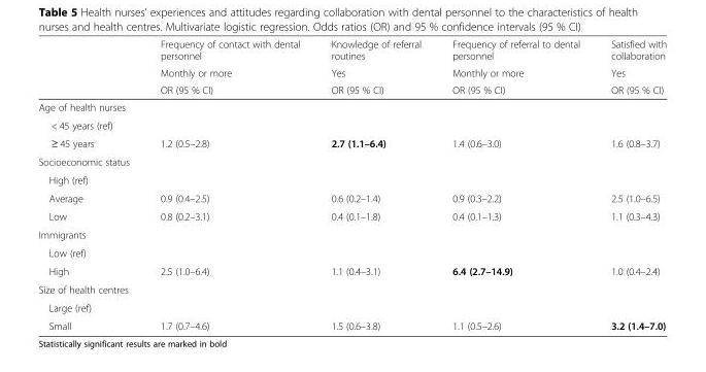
<table><thead><tr><td rowspan="3"></td><td rowspan="3">Frequency of contact with dental personnel Monthly or more OR (95 % CI)</td><td rowspan="3">Knowledge of referral routines Yes OR (95 % CI)</td><td rowspan="3">Frequency of referral to dental personnel Monthly or more OR (95 % CI)</td><td rowspan="3">Satisfied with collaboration Yes OR (95 % CI)</td></tr><tr></tr><tr></tr></thead><tbody><tr><td colspan="5">Age of health nurses</td></tr><tr><td colspan="5">&lt; 45 years (ref)</td></tr><tr><td>≥ 45 years</td><td>1.2 (0.5–2.8)</td><td>2.7 (1.1–6.4)</td><td>1.4 (0.6–3.0)</td><td>1.6 (0.8–3.7)</td></tr><tr><td colspan="5">Socioeconomic status</td></tr><tr><td colspan="5">High (ref)</td></tr><tr><td>Average</td><td>0.9 (0.4–2.5)</td><td>0.6 (0.2–1.4)</td><td>0.9 (0.3–2.2)</td><td>2.5 (1.0–6.5)</td></tr><tr><td>Low</td><td>0.8 (0.2–3.1)</td><td>0.4 (0.1–1.8)</td><td>0.4 (0.1–1.3)</td><td>1.1 (0.3–4.3)</td></tr><tr><td colspan="5">Immigrants</td></tr><tr><td colspan="5">Low (ref)</td></tr><tr><td>High</td><td>2.5 (1.0–6.4)</td><td>1.1 (0.4–3.1)</td><td>6.4 (2.7–14.9)</td><td>1.0 (0.4–2.4)</td></tr><tr><td colspan="5">Size of health centres</td></tr><tr><td colspan="5">Large (ref)</td></tr><tr><td>Small</td><td>1.7 (0.7–4.6)</td><td>1.5 (0.6–3.8)</td><td>1.1 (0.5–2.6)</td><td>3.2 (1.4–7.0)</td></tr></tbody></table>